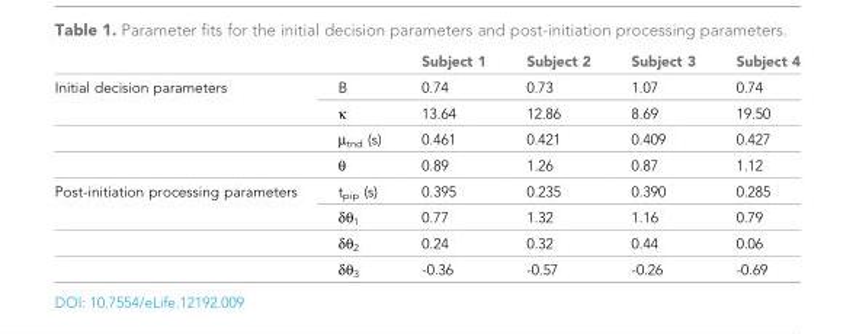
<table><thead><tr><td></td><td></td><td>Subject 1</td><td>Subject 2</td><td>Subject 3</td><td>Subject 4</td></tr></thead><tbody><tr><td rowspan="4">Initial decision parameters</td><td>B</td><td>0.74</td><td>0.73</td><td>1.07</td><td>0.74</td></tr><tr><td>κ</td><td>13.64</td><td>12.86</td><td>8.69</td><td>19.50</td></tr><tr><td>μ<sub>tnd</sub> (s)</td><td>0.461</td><td>0.421</td><td>0.409</td><td>0.427</td></tr><tr><td>θ</td><td>0.89</td><td>1.26</td><td>0.87</td><td>1.12</td></tr><tr><td rowspan="4">Post-initiation processing parameters</td><td>t<sub>pip</sub> (s)</td><td>0.395</td><td>0.235</td><td>0.390</td><td>0.285</td></tr><tr><td>δθ<sub>1</sub></td><td>0.77</td><td>1.32</td><td>1.16</td><td>0.79</td></tr><tr><td>δθ<sub>2</sub></td><td>0.24</td><td>0.32</td><td>0.44</td><td>0.06</td></tr><tr><td>δθ<sub>3</sub></td><td>-0.36</td><td>-0.57</td><td>-0.26</td><td>-0.69</td></tr></tbody></table>